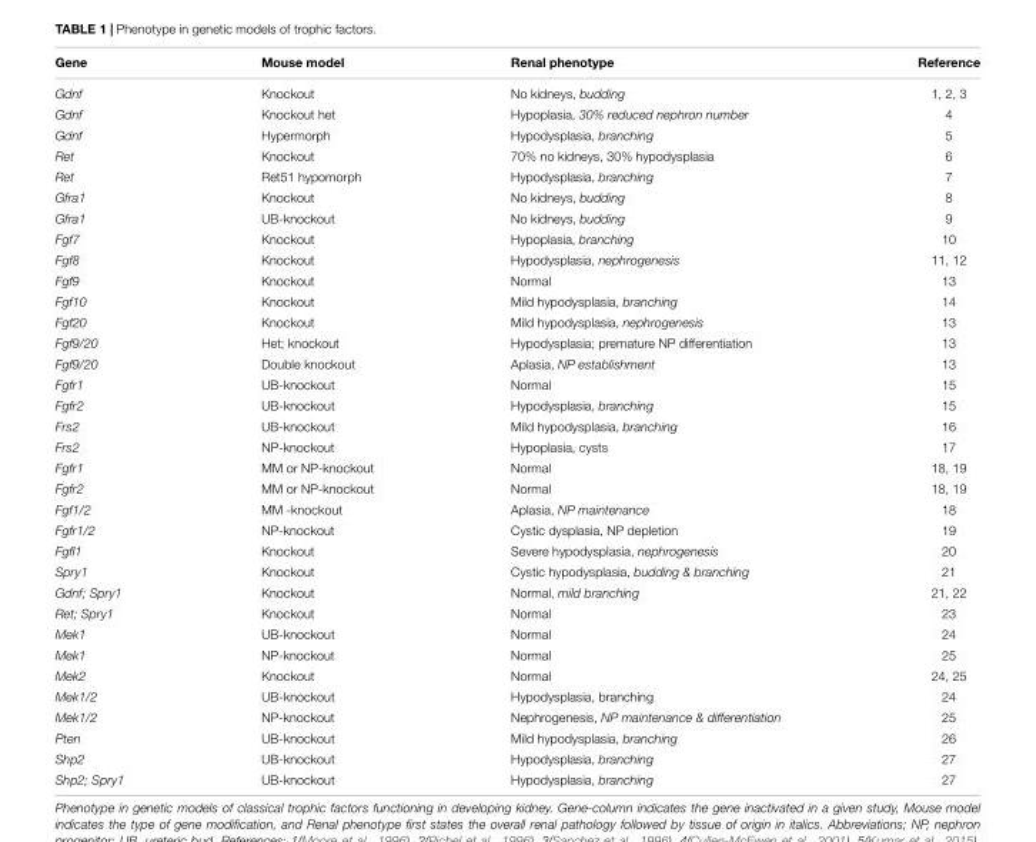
<table><thead><tr><td>Gene</td><td>Mouse model</td><td>Renal phenotype</td><td>Reference</td></tr></thead><tbody><tr><td>Gdnf</td><td>Knockout</td><td>No kidneys, budding</td><td>1, 2, 3</td></tr><tr><td>Gdnf</td><td>Knockout het</td><td>Hypoplasia, 30% reduced nephron number</td><td>4</td></tr><tr><td>Gdnf</td><td>Hypermorph</td><td>Hypodysplasia, branching</td><td>5</td></tr><tr><td>Ret</td><td>Knockout</td><td>70% no kidneys, 30% hypodysplasia</td><td>6</td></tr><tr><td>Ret</td><td>Ret51 hypomorph</td><td>Hypodysplasia, branching</td><td>7</td></tr><tr><td>Gfra1</td><td>Knockout</td><td>No kidneys, budding</td><td>8</td></tr><tr><td>Gfra1</td><td>UB-knockout</td><td>No kidneys, budding</td><td>9</td></tr><tr><td>Fgf7</td><td>Knockout</td><td>Hypoplasia, branching</td><td>10</td></tr><tr><td>Fgf8</td><td>Knockout</td><td>Hypodysplasia, nephrogenesis</td><td>11, 12</td></tr><tr><td>Fgf9</td><td>Knockout</td><td>Normal</td><td>13</td></tr><tr><td>Fgf10</td><td>Knockout</td><td>Mild hypodysplasia, branching</td><td>14</td></tr><tr><td>Fgf20</td><td>Knockout</td><td>Mild hypodysplasia, nephrogenesis</td><td>13</td></tr><tr><td>Fgf9/20</td><td>Het; knockout</td><td>Hypodysplasia; premature NP differentiation</td><td>13</td></tr><tr><td>Fgf9/20</td><td>Double knockout</td><td>Aplasia, NP establishment</td><td>13</td></tr><tr><td>Fgfr1</td><td>UB-knockout</td><td>Normal</td><td>15</td></tr><tr><td>Fgfr2</td><td>UB-knockout</td><td>Hypodysplasia, branching</td><td>15</td></tr><tr><td>Frs2</td><td>UB-knockout</td><td>Mild hypodysplasia, branching</td><td>16</td></tr><tr><td>Frs2</td><td>NP-knockout</td><td>Hypoplasia, cysts</td><td>17</td></tr><tr><td>Fgfr1</td><td>MM or NP-knockout</td><td>Normal</td><td>18, 19</td></tr><tr><td>Fgfr2</td><td>MM or NP-knockout</td><td>Normal</td><td>18, 19</td></tr><tr><td>Fgf1/2</td><td>MM -knockout</td><td>Aplasia, NP maintenance</td><td>18</td></tr><tr><td>Fgfr1/2</td><td>NP-knockout</td><td>Cystic dysplasia, NP depletion</td><td>19</td></tr><tr><td>Fgfl1</td><td>Knockout</td><td>Severe hypodysplasia, nephrogenesis</td><td>20</td></tr><tr><td>Spry1</td><td>Knockout</td><td>Cystic hypodysplasia, budding &amp; branching</td><td>21</td></tr><tr><td>Gdnf; Spry1</td><td>Knockout</td><td>Normal, mild branching</td><td>21, 22</td></tr><tr><td>Ret; Spry1</td><td>Knockout</td><td>Normal</td><td>23</td></tr><tr><td>Mek1</td><td>UB-knockout</td><td>Normal</td><td>24</td></tr><tr><td>Mek1</td><td>NP-knockout</td><td>Normal</td><td>25</td></tr><tr><td>Mek2</td><td>Knockout</td><td>Normal</td><td>24, 25</td></tr><tr><td>Mek1/2</td><td>UB-knockout</td><td>Hypodysplasia, branching</td><td>24</td></tr><tr><td>Mek1/2</td><td>NP-knockout</td><td>Nephrogenesis, NP maintenance &amp; differentiation</td><td>25</td></tr><tr><td>Pten</td><td>UB-knockout</td><td>Mild hypodysplasia, branching</td><td>26</td></tr><tr><td>Shp2</td><td>UB-knockout</td><td>Hypodysplasia, branching</td><td>27</td></tr><tr><td>Shp2; Spry1</td><td>UB-knockout</td><td>Hypodysplasia, branching</td><td>27</td></tr></tbody></table>